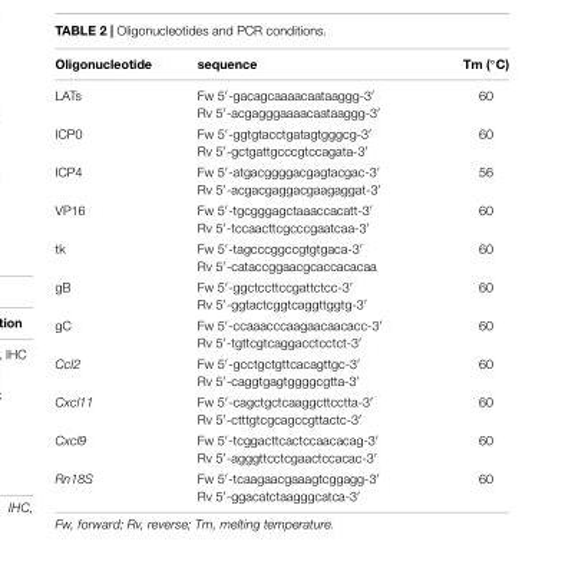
<table><thead><tr><td>Oligonucleotide</td><td>sequence</td><td>Tm (◦C)</td></tr></thead><tbody><tr><td>LATs</td><td>Fw 5′-gacagcaaaacaataaggg-3′ Rv 5′-acgagggaaaacaataaggg-3′</td><td>60</td></tr><tr><td>ICP0</td><td>Fw 5′-ggtgtacctgatagtgggcg-3′ Rv 5′-gctgattgcccgtccagata-3′</td><td>60</td></tr><tr><td>ICP4</td><td>Fw 5′-atgacggggacgagtacgac-3′ Rv 5′-acgacgaggacgaagaggat-3′</td><td>56</td></tr><tr><td>VP16</td><td>Fw 5′-tgcgggagctaaaccacatt-3′ Rv 5′-tccaacttcgcccgaatcaa-3′</td><td>60</td></tr><tr><td>tk</td><td>Fw 5′-tagcccggccgtgtgaca-3′ Rv 5′-cataccggaacgcaccacacaa</td><td>60</td></tr><tr><td>gB</td><td>Fw 5′-ggctccttccgattctcc-3′ Rv 5′-ggtactcggtcaggttggtg-3′</td><td>60</td></tr><tr><td>gC</td><td>Fw 5′-ccaaacccaagaacaacacc-3′ Rv 5′-tgttcgtcaggacctcctct-3′</td><td>60</td></tr><tr><td>Ccl2</td><td>Fw 5′-gcctgctgttcacagttgc-3′ Rv 5′-caggtgagtggggcgtta-3′</td><td>60</td></tr><tr><td>Cxcl11</td><td>Fw 5′-cagctgctcaaggcttcctta-3′ Rv 5′-ctttgtcgcagccgttactc-3′</td><td>60</td></tr><tr><td>Cxcl9</td><td>Fw 5′-tcggacttcactccaacacag-3′ Rv 5′-agggttcctcgaactccacac-3′</td><td>60</td></tr><tr><td>Rn18S</td><td>Fw 5′-tcaagaacgaaagtcggagg-3′ Rv 5′-ggacatctaagggcatca-3′</td><td>60</td></tr></tbody></table>